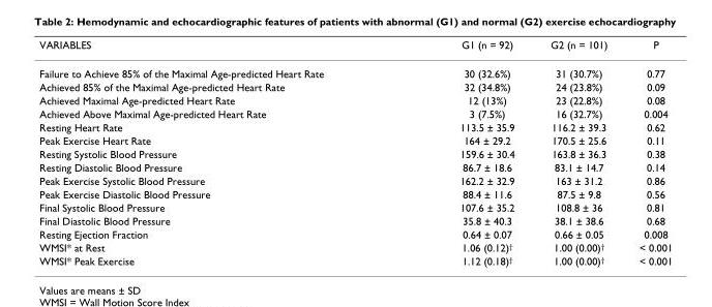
<table><thead><tr><td>VARIABLES</td><td>G1 (n = 92)</td><td>G2 (n = 101)</td><td>P</td></tr></thead><tbody><tr><td>Failure to Achieve 85% of the Maximal Age-predicted Heart Rate</td><td>30 (32.6%)</td><td>31 (30.7%)</td><td>0.77</td></tr><tr><td>Achieved 85% of the Maximal Age-predicted Heart Rate</td><td>32 (34.8%)</td><td>24 (23.8%)</td><td>0.09</td></tr><tr><td>Achieved Maximal Age-predicted Heart Rate</td><td>12 (13%)</td><td>23 (22.8%)</td><td>0.08</td></tr><tr><td>Achieved Above Maximal Age-predicted Heart Rate</td><td>3 (7.5%)</td><td>16 (32.7%)</td><td>0.004</td></tr><tr><td>Resting Heart Rate</td><td>113.5 ± 35.9</td><td>116.2 ± 39.3</td><td>0.62</td></tr><tr><td>Peak Exercise Heart Rate</td><td>164 ± 29.2</td><td>170.5 ± 25.6</td><td>0.11</td></tr><tr><td>Resting Systolic Blood Pressure</td><td>159.6 ± 30.4</td><td>163.8 ± 36.3</td><td>0.38</td></tr><tr><td>Resting Diastolic Blood Pressure</td><td>86.7 ± 18.6</td><td>83.1 ± 14.7</td><td>0.14</td></tr><tr><td>Peak Exercise Systolic Blood Pressure</td><td>162.2 ± 32.9</td><td>163 ± 31.2</td><td>0.86</td></tr><tr><td>Peak Exercise Diastolic Blood Pressure</td><td>88.4 ± 11.6</td><td>87.5 ± 9.8</td><td>0.56</td></tr><tr><td>Final Systolic Blood Pressure</td><td>107.6 ± 35.2</td><td>108.8 ± 36</td><td>0.81</td></tr><tr><td>Final Diastolic Blood Pressure</td><td>35.8 ± 40.3</td><td>38.1 ± 38.6</td><td>0.68</td></tr><tr><td>Resting Ejection Fraction</td><td>0.64 ± 0.07</td><td>0.66 ± 0.05</td><td>0.008</td></tr><tr><td>WMSI* at Rest</td><td>1.06 (0.12)<sup>†</sup></td><td>1.00 (0.00)<sup>†</sup></td><td>&lt; 0.001</td></tr><tr><td>WMSI* Peak Exercise</td><td>1.12 (0.18)<sup>†</sup></td><td>1.00 (0.00)<sup>†</sup></td><td>&lt; 0.001</td></tr></tbody></table>